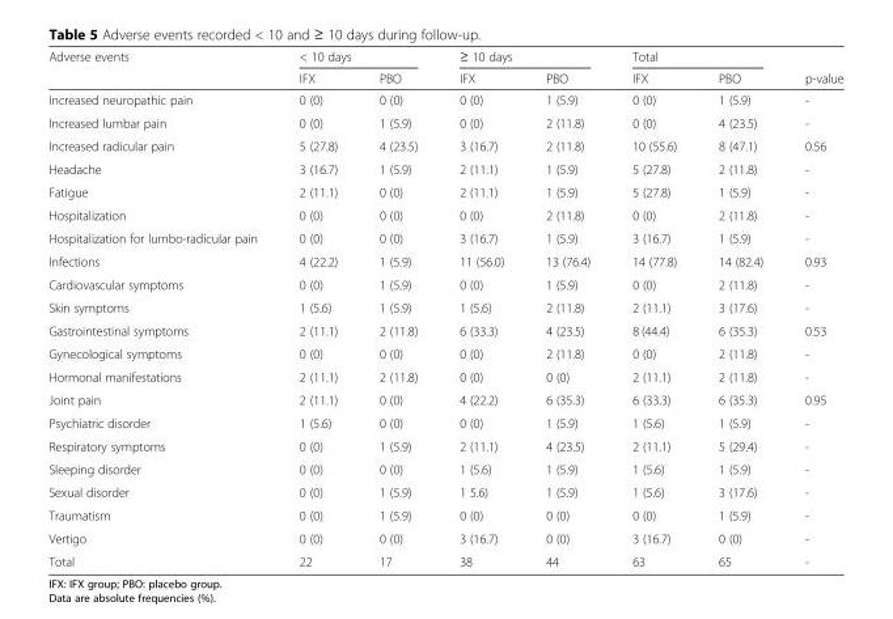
<table><thead><tr><td rowspan="2">Adverse events</td><td colspan="2">&lt; 10 days</td><td colspan="2">≥ 10 days</td><td colspan="2">Total</td><td rowspan="2">p-value</td></tr><tr><td>IFX</td><td>PBO</td><td>IFX</td><td>PBO</td><td>IFX</td><td>PBO</td></tr></thead><tbody><tr><td>Increased neuropathic pain</td><td>0 (0)</td><td>0 (0)</td><td>0 (0)</td><td>1 (5.9)</td><td>0 (0)</td><td>1 (5.9)</td><td>-</td></tr><tr><td>Increased lumbar pain</td><td>0 (0)</td><td>1 (5.9)</td><td>0 (0)</td><td>2 (11.8)</td><td>0 (0)</td><td>4 (23.5)</td><td>-</td></tr><tr><td>Increased radicular pain</td><td>5 (27.8)</td><td>4 (23.5)</td><td>3 (16.7)</td><td>2 (11.8)</td><td>10 (55.6)</td><td>8 (47.1)</td><td>0.56</td></tr><tr><td>Headache</td><td>3 (16.7)</td><td>1 (5.9)</td><td>2 (11.1)</td><td>1 (5.9)</td><td>5 (27.8)</td><td>2 (11.8)</td><td>-</td></tr><tr><td>Fatigue</td><td>2 (11.1)</td><td>0 (0)</td><td>2 (11.1)</td><td>1 (5.9)</td><td>5 (27.8)</td><td>1 (5.9)</td><td>-</td></tr><tr><td>Hospitalization</td><td>0 (0)</td><td>0 (0)</td><td>0 (0)</td><td>2 (11.8)</td><td>0 (0)</td><td>2 (11.8)</td><td>-</td></tr><tr><td>Hospitalization for lumbo-radicular pain</td><td>0 (0)</td><td>0 (0)</td><td>3 (16.7)</td><td>1 (5.9)</td><td>3 (16.7)</td><td>1 (5.9)</td><td>-</td></tr><tr><td>Infections</td><td>4 (22.2)</td><td>1 (5.9)</td><td>11 (56.0)</td><td>13 (76.4)</td><td>14 (77.8)</td><td>14 (82.4)</td><td>0.93</td></tr><tr><td>Cardiovascular symptoms</td><td>0 (0)</td><td>1 (5.9)</td><td>0 (0)</td><td>1 (5.9)</td><td>0 (0)</td><td>2 (11.8)</td><td>-</td></tr><tr><td>Skin symptoms</td><td>1 (5.6)</td><td>1 (5.9)</td><td>1 (5.6)</td><td>2 (11.8)</td><td>2 (11.1)</td><td>3 (17.6)</td><td>-</td></tr><tr><td>Gastrointestinal symptoms</td><td>2 (11.1)</td><td>2 (11.8)</td><td>6 (33.3)</td><td>4 (23.5)</td><td>8 (44.4)</td><td>6 (35.3)</td><td>0.53</td></tr><tr><td>Gynecological symptoms</td><td>0 (0)</td><td>0 (0)</td><td>0 (0)</td><td>2 (11.8)</td><td>0 (0)</td><td>2 (11.8)</td><td>-</td></tr><tr><td>Hormonal manifestations</td><td>2 (11.1)</td><td>2 (11.8)</td><td>0 (0)</td><td>0 (0)</td><td>2 (11.1)</td><td>2 (11.8)</td><td>-</td></tr><tr><td>Joint pain</td><td>2 (11.1)</td><td>0 (0)</td><td>4 (22.2)</td><td>6 (35.3)</td><td>6 (33.3)</td><td>6 (35.3)</td><td>0.95</td></tr><tr><td>Psychiatric disorder</td><td>1 (5.6)</td><td>0 (0)</td><td>0 (0)</td><td>1 (5.9)</td><td>1 (5.6)</td><td>1 (5.9)</td><td>-</td></tr><tr><td>Respiratory symptoms</td><td>0 (0)</td><td>1 (5.9)</td><td>2 (11.1)</td><td>4 (23.5)</td><td>2 (11.1)</td><td>5 (29.4)</td><td>-</td></tr><tr><td>Sleeping disorder</td><td>0 (0)</td><td>0 (0)</td><td>1 (5.6)</td><td>1 (5.9)</td><td>1 (5.6)</td><td>1 (5.9)</td><td>-</td></tr><tr><td>Sexual disorder</td><td>0 (0)</td><td>1 (5.9)</td><td>1 5.6)</td><td>1 (5.9)</td><td>1 (5.6)</td><td>3 (17.6)</td><td>-</td></tr><tr><td>Traumatism</td><td>0 (0)</td><td>1 (5.9)</td><td>0 (0)</td><td>0 (0)</td><td>0 (0)</td><td>1 (5.9)</td><td>-</td></tr><tr><td>Vertigo</td><td>0 (0)</td><td>0 (0)</td><td>3 (16.7)</td><td>0 (0)</td><td>3 (16.7)</td><td>0 (0)</td><td>-</td></tr><tr><td>Total</td><td>22</td><td>17</td><td>38</td><td>44</td><td>63</td><td>65</td><td>-</td></tr></tbody></table>